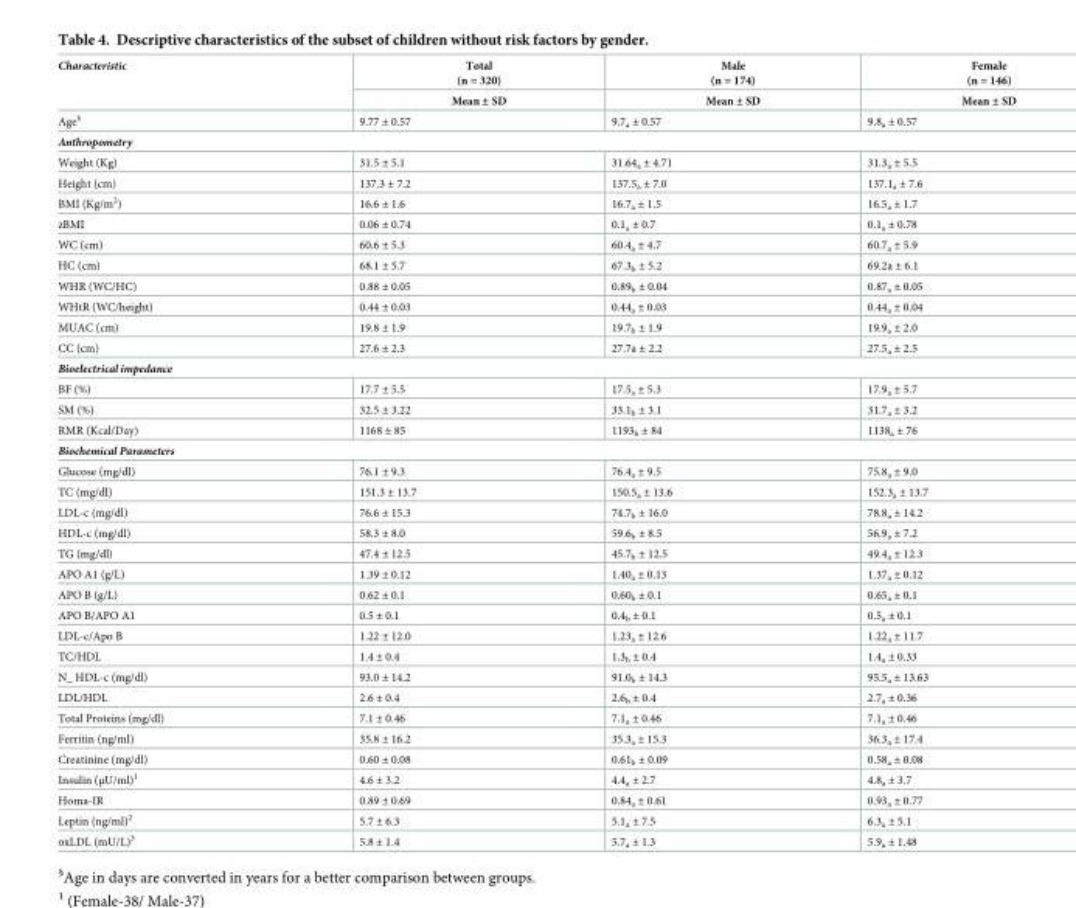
<table><thead><tr><td rowspan="2">Characteristic</td><td rowspan="2">Total (n = 320) Mean ± SD</td><td rowspan="2">Male (n = 174) Mean ± SD</td><td rowspan="2">Female (n = 146) Mean ± SD</td></tr><tr></tr></thead><tbody><tr><td>Age<sup>§</sup></td><td>9.77 ± 0.57</td><td>9.7<sub>a</sub> ± 0.57</td><td>9.8<sub>a</sub> ± 0.57</td></tr><tr><td colspan="4">Anthropometry</td></tr><tr><td>Weight (Kg)</td><td>31.5 ± 5.1</td><td>31.64<sub>a</sub> ± 4.71</td><td>31.3<sub>a</sub> ± 5.5</td></tr><tr><td>Height (cm)</td><td>137.3 ± 7.2</td><td>137.5<sub>a</sub> ± 7.0</td><td>137.1<sub>a</sub> ± 7.6</td></tr><tr><td>BMI (Kg/m<sup>2</sup>)</td><td>16.6 ± 1.6</td><td>16.7<sub>a</sub> ± 1.5</td><td>16.5<sub>a</sub> ± 1.7</td></tr><tr><td>zBMI</td><td>0.06 ± 0.74</td><td>0.1<sub>a</sub> ± 0.7</td><td>0.1<sub>a</sub> ± 0.78</td></tr><tr><td>WC (cm)</td><td>60.6 ± 5.3</td><td>60.4<sub>a</sub> ± 4.7</td><td>60.7<sub>a</sub> ± 5.9</td></tr><tr><td>HC (cm)</td><td>68.1 ± 5.7</td><td>67.3<sub>b</sub> ± 5.2</td><td>69.2a ± 6.1</td></tr><tr><td>WHR (WC/HC)</td><td>0.88 ± 0.05</td><td>0.89<sub>b</sub> ± 0.04</td><td>0.87<sub>a</sub> ± 0.05</td></tr><tr><td>WHtR (WC/height)</td><td>0.44 ± 0.03</td><td>0.44<sub>a</sub> ± 0.03</td><td>0.44<sub>a</sub> ± 0.04</td></tr><tr><td>MUAC (cm)</td><td>19.8 ± 1.9</td><td>19.7<sub>b</sub> ± 1.9</td><td>19.9<sub>a</sub> ± 2.0</td></tr><tr><td>CC (cm)</td><td>27.6 ± 2.3</td><td>27.7a ± 2.2</td><td>27.5<sub>a</sub> ± 2.5</td></tr><tr><td colspan="4">Bioelectrical impedance</td></tr><tr><td>BF (%)</td><td>17.7 ± 5.5</td><td>17.5<sub>a</sub> ± 5.3</td><td>17.9<sub>a</sub> ± 5.7</td></tr><tr><td>SM (%)</td><td>32.5 ± 3.22</td><td>33.1<sub>b</sub> ± 3.1</td><td>31.7<sub>a</sub> ± 3.2</td></tr><tr><td>RMR (Kcal/Day)</td><td>1168 ± 85</td><td>1193<sub>b</sub> ± 84</td><td>1138<sub>a</sub> ± 76</td></tr><tr><td colspan="4">Biochemical Parameters</td></tr><tr><td>Glucose (mg/dl)</td><td>76.1 ± 9.3</td><td>76.4<sub>a</sub> ± 9.5</td><td>75.8<sub>a</sub> ± 9.0</td></tr><tr><td>TC (mg/dl)</td><td>151.3 ± 13.7</td><td>150.5<sub>a</sub> ± 13.6</td><td>152.3<sub>a</sub> ± 13.7</td></tr><tr><td>LDL-c (mg/dl)</td><td>76.6 ± 15.3</td><td>74.7<sub>b</sub> ± 16.0</td><td>78.8<sub>a</sub> ± 14.2</td></tr><tr><td>HDL-c (mg/dl)</td><td>58.3 ± 8.0</td><td>59.6<sub>b</sub> ± 8.5</td><td>56.9<sub>a</sub> ± 7.2</td></tr><tr><td>TG (mg/dl)</td><td>47.4 ± 12.5</td><td>45.7<sub>b</sub> ± 12.5</td><td>49.4<sub>a</sub> ± 12.3</td></tr><tr><td>APO A1 (g/L)</td><td>1.39 ± 0.12</td><td>1.40<sub>a</sub> ± 0.13</td><td>1.37<sub>a</sub> ± 0.12</td></tr><tr><td>APO B (g/L)</td><td>0.62 ± 0.1</td><td>0.60<sub>b</sub> ± 0.1</td><td>0.65<sub>a</sub> ± 0.1</td></tr><tr><td>APO B/APO A1</td><td>0.5 ± 0.1</td><td>0.4<sub>b</sub> ± 0.1</td><td>0.5<sub>a</sub> ± 0.1</td></tr><tr><td>LDL-c/Apo B</td><td>1.22 ± 12.0</td><td>1.23<sub>a</sub> ± 12.6</td><td>1.22<sub>a</sub> ± 11.7</td></tr><tr><td>TC/HDL</td><td>1.4 ± 0.4</td><td>1.3<sub>b</sub> ± 0.4</td><td>1.4<sub>a</sub> ± 0.33</td></tr><tr><td>N_ HDL-c (mg/dl)</td><td>93.0 ± 14.2</td><td>91.0<sub>b</sub> ± 14.3</td><td>95.5<sub>a</sub> ± 13.63</td></tr><tr><td>LDL/HDL</td><td>2.6 ± 0.4</td><td>2.6<sub>b</sub> ± 0.4</td><td>2.7<sub>a</sub> ± 0.36</td></tr><tr><td>Total Proteins (mg/dl)</td><td>7.1 ± 0.46</td><td>7.1<sub>a</sub> ± 0.46</td><td>7.1<sub>a</sub> ± 0.46</td></tr><tr><td>Ferritin (ng/ml)</td><td>35.8 ± 16.2</td><td>35.3<sub>a</sub> ± 15.3</td><td>36.3<sub>a</sub> ± 17.4</td></tr><tr><td>Creatinine (mg/dl)</td><td>0.60 ± 0.08</td><td>0.61<sub>b</sub> ± 0.09</td><td>0.58<sub>a</sub> ± 0.08</td></tr><tr><td>Insulin (μU/ml)<sup>1</sup></td><td>4.6 ± 3.2</td><td>4.4<sub>a</sub> ± 2.7</td><td>4.8<sub>a</sub> ± 3.7</td></tr><tr><td>Homa-IR</td><td>0.89 ± 0.69</td><td>0.84<sub>a</sub> ± 0.61</td><td>0.93<sub>a</sub> ± 0.77</td></tr><tr><td>Leptin (ng/ml)<sup>2</sup></td><td>5.7 ± 6.3</td><td>5.1<sub>a</sub> ± 7.5</td><td>6.3<sub>a</sub> ± 5.1</td></tr><tr><td>oxLDL (mU/L)<sup>3</sup></td><td>5.8 ± 1.4</td><td>5.7<sub>a</sub> ± 1.3</td><td>5.9<sub>a</sub> ± 1.48</td></tr></tbody></table>